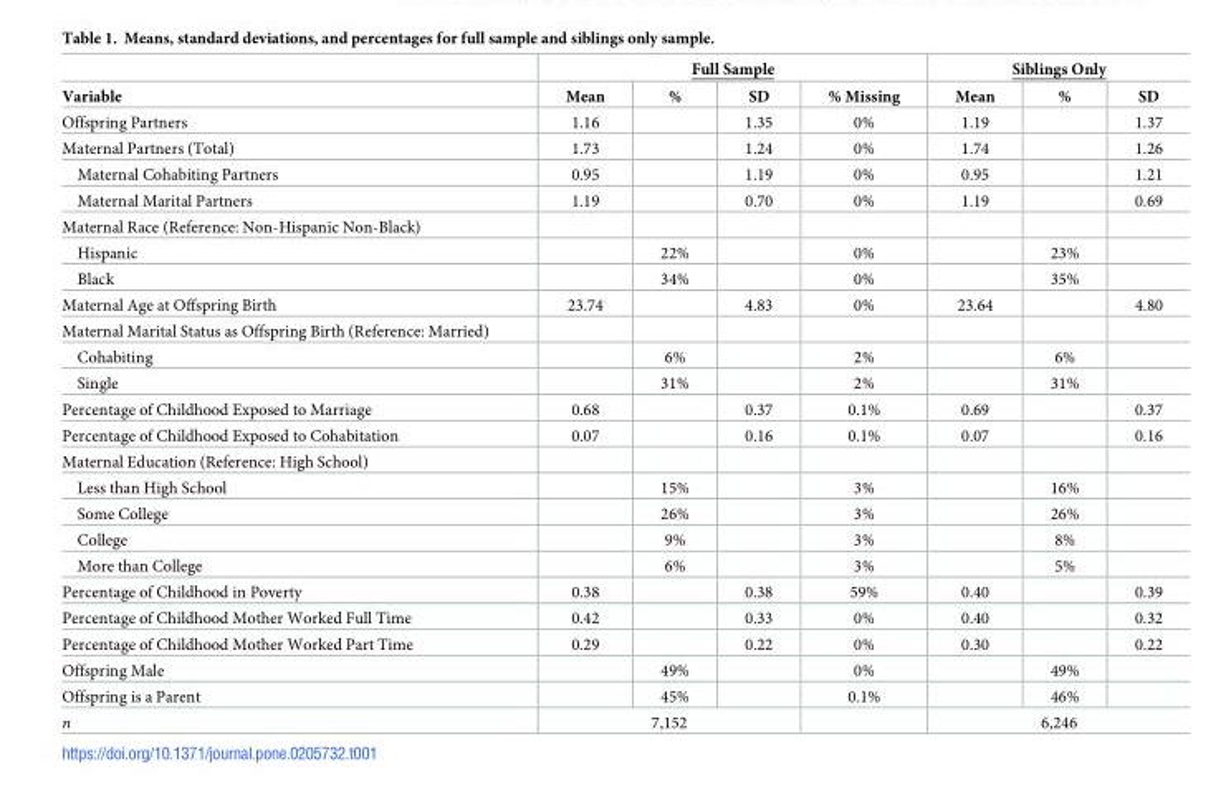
<table><thead><tr><td rowspan="2">Variable</td><td colspan="4">Full Sample</td><td colspan="3">Siblings Only</td></tr><tr><td>Mean</td><td>%</td><td>SD</td><td>% Missing</td><td>Mean</td><td>%</td><td>SD</td></tr></thead><tbody><tr><td>Offspring Partners</td><td>1.16</td><td></td><td>1.35</td><td>0%</td><td>1.19</td><td></td><td>1.37</td></tr><tr><td>Maternal Partners (Total)</td><td>1.73</td><td></td><td>1.24</td><td>0%</td><td>1.74</td><td></td><td>1.26</td></tr><tr><td>Maternal Cohabiting Partners</td><td>0.95</td><td></td><td>1.19</td><td>0%</td><td>0.95</td><td></td><td>1.21</td></tr><tr><td>Maternal Marital Partners</td><td>1.19</td><td></td><td>0.70</td><td>0%</td><td>1.19</td><td></td><td>0.69</td></tr><tr><td colspan="8">Maternal Race (Reference: Non-Hispanic Non-Black)</td></tr><tr><td>Hispanic</td><td></td><td>22%</td><td></td><td>0%</td><td></td><td>23%</td><td></td></tr><tr><td>Black</td><td></td><td>34%</td><td></td><td>0%</td><td></td><td>35%</td><td></td></tr><tr><td>Maternal Age at Offspring Birth</td><td>23.74</td><td></td><td>4.83</td><td>0%</td><td>23.64</td><td></td><td>4.80</td></tr><tr><td colspan="8">Maternal Marital Status as Offspring Birth (Reference: Married)</td></tr><tr><td>Cohabiting</td><td></td><td>6%</td><td></td><td>2%</td><td></td><td>6%</td><td></td></tr><tr><td>Single</td><td></td><td>31%</td><td></td><td>2%</td><td></td><td>31%</td><td></td></tr><tr><td>Percentage of Childhood Exposed to Marriage</td><td>0.68</td><td></td><td>0.37</td><td>0.1%</td><td>0.69</td><td></td><td>0.37</td></tr><tr><td>Percentage of Childhood Exposed to Cohabitation</td><td>0.07</td><td></td><td>0.16</td><td>0.1%</td><td>0.07</td><td></td><td>0.16</td></tr><tr><td colspan="8">Maternal Education (Reference: High School)</td></tr><tr><td>Less than High School</td><td></td><td>15%</td><td></td><td>3%</td><td></td><td>16%</td><td></td></tr><tr><td>Some College</td><td></td><td>26%</td><td></td><td>3%</td><td></td><td>26%</td><td></td></tr><tr><td>College</td><td></td><td>9%</td><td></td><td>3%</td><td></td><td>8%</td><td></td></tr><tr><td>More than College</td><td></td><td>6%</td><td></td><td>3%</td><td></td><td>5%</td><td></td></tr><tr><td>Percentage of Childhood in Poverty</td><td>0.38</td><td></td><td>0.38</td><td>59%</td><td>0.40</td><td></td><td>0.39</td></tr><tr><td>Percentage of Childhood Mother Worked Full Time</td><td>0.42</td><td></td><td>0.33</td><td>0%</td><td>0.40</td><td></td><td>0.32</td></tr><tr><td>Percentage of Childhood Mother Worked Part Time</td><td>0.29</td><td></td><td>0.22</td><td>0%</td><td>0.30</td><td></td><td>0.22</td></tr><tr><td>Offspring Male</td><td></td><td>49%</td><td></td><td>0%</td><td></td><td>49%</td><td></td></tr><tr><td>Offspring is a Parent</td><td></td><td>45%</td><td></td><td>0.1%</td><td></td><td>46%</td><td></td></tr><tr><td>n</td><td colspan="3">7,152</td><td></td><td colspan="3">6,246</td></tr></tbody></table>